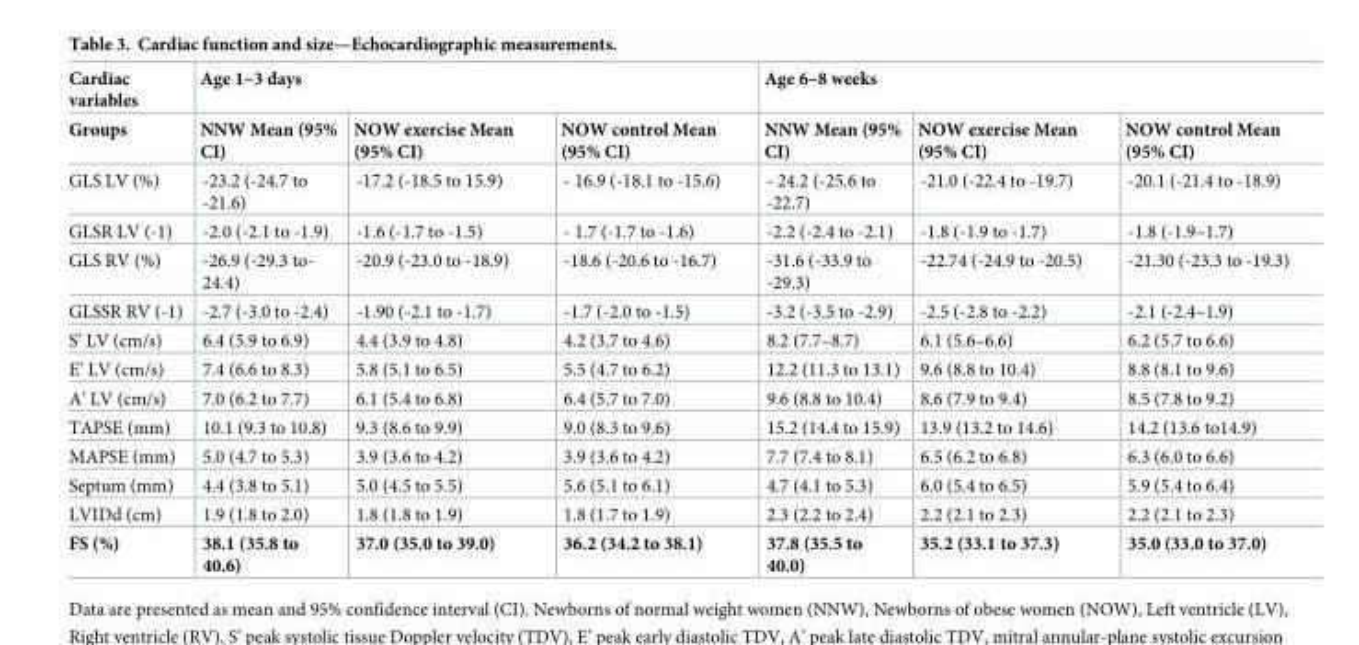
<table><thead><tr><td rowspan="2">Cardiac variables Groups</td><td colspan="3">Age 1–3 days</td><td colspan="3">Age 6–8 weeks</td></tr><tr><td>NNW Mean (95% CI)</td><td>NOW exercise Mean (95% CI)</td><td>NOW control Mean (95% CI)</td><td>NNW Mean (95% CI)</td><td>NOW exercise Mean (95% CI)</td><td>NOW control Mean (95% CI)</td></tr></thead><tbody><tr><td>GLS LV (%)</td><td>-23.2 (-24.7 to -21.6)</td><td>-17.2 (-18.5 to 15.9)</td><td>- 16.9 (-18.1 to -15.6)</td><td>- 24.2 (-25.6 to -22.7)</td><td>-21.0 (-22.4 to -19.7)</td><td>-20.1 (-21.4 to -18.9)</td></tr><tr><td>GLSR LV (-1)</td><td>-2.0 (-2.1 to -1.9)</td><td>-1.6 (-1.7 to -1.5)</td><td>- 1.7 (-1.7 to -1.6)</td><td>-2.2 (-2.4 to -2.1)</td><td>-1.8 (-1.9 to -1.7)</td><td>-1.8 (-1.9–1.7)</td></tr><tr><td>GLS RV (%)</td><td>-26.9 (-29.3 to- 24.4)</td><td>-20.9 (-23.0 to -18.9)</td><td>-18.6 (-20.6 to -16.7)</td><td>-31.6 (-33.9 to -29.3)</td><td>-22.74 (-24.9 to -20.5)</td><td>-21.30 (-23.3 to -19.3)</td></tr><tr><td>GLSSR RV (-1)</td><td>-2.7 (-3.0 to -2.4)</td><td>-1.90 (-2.1 to -1.7)</td><td>-1.7 (-2.0 to -1.5)</td><td>-3.2 (-3.5 to -2.9)</td><td>-2.5 (-2.8 to -2.2)</td><td>-2.1 (-2.4–1.9)</td></tr><tr><td>S’ LV (cm/s)</td><td>6.4 (5.9 to 6.9)</td><td>4.4 (3.9 to 4.8)</td><td>4.2 (3.7 to 4.6)</td><td>8.2 (7.7–8.7)</td><td>6.1 (5.6–6.6)</td><td>6.2 (5.7 to 6.6)</td></tr><tr><td>E’ LV (cm/s)</td><td>7.4 (6.6 to 8.3)</td><td>5.8 (5.1 to 6.5)</td><td>5.5 (4.7 to 6.2)</td><td>12.2 (11.3 to 13.1)</td><td>9.6 (8.8 to 10.4)</td><td>8.8 (8.1 to 9.6)</td></tr><tr><td>A’ LV (cm/s)</td><td>7.0 (6.2 to 7.7)</td><td>6.1 (5.4 to 6.8)</td><td>6.4 (5.7 to 7.0)</td><td>9.6 (8.8 to 10.4)</td><td>8.6 (7.9 to 9.4)</td><td>8.5 (7.8 to 9.2)</td></tr><tr><td>TAPSE (mm)</td><td>10.1 (9.3 to 10.8)</td><td>9.3 (8.6 to 9.9)</td><td>9.0 (8.3 to 9.6)</td><td>15.2 (14.4 to 15.9)</td><td>13.9 (13.2 to 14.6)</td><td>14.2 (13.6 to14.9)</td></tr><tr><td>MAPSE (mm)</td><td>5.0 (4.7 to 5.3)</td><td>3.9 (3.6 to 4.2)</td><td>3.9 (3.6 to 4.2)</td><td>7.7 (7.4 to 8.1)</td><td>6.5 (6.2 to 6.8)</td><td>6.3 (6.0 to 6.6)</td></tr><tr><td>Septum (mm)</td><td>4.4 (3.8 to 5.1)</td><td>5.0 (4.5 to 5.5)</td><td>5.6 (5.1 to 6.1)</td><td>4.7 (4.1 to 5.3)</td><td>6.0 (5.4 to 6.5)</td><td>5.9 (5.4 to 6.4)</td></tr><tr><td>LVIDd (cm)</td><td>1.9 (1.8 to 2.0)</td><td>1.8 (1.8 to 1.9)</td><td>1.8 (1.7 to 1.9)</td><td>2.3 (2.2 to 2.4)</td><td>2.2 (2.1 to 2.3)</td><td>2.2 (2.1 to 2.3)</td></tr><tr><td>FS (%)</td><td>38.1 (35.8 to 40.6)</td><td>37.0 (35.0 to 39.0)</td><td>36.2 (34.2 to 38.1)</td><td>37.8 (35.5 to 40.0)</td><td>35.2 (33.1 to 37.3)</td><td>35.0 (33.0 to 37.0)</td></tr></tbody></table>